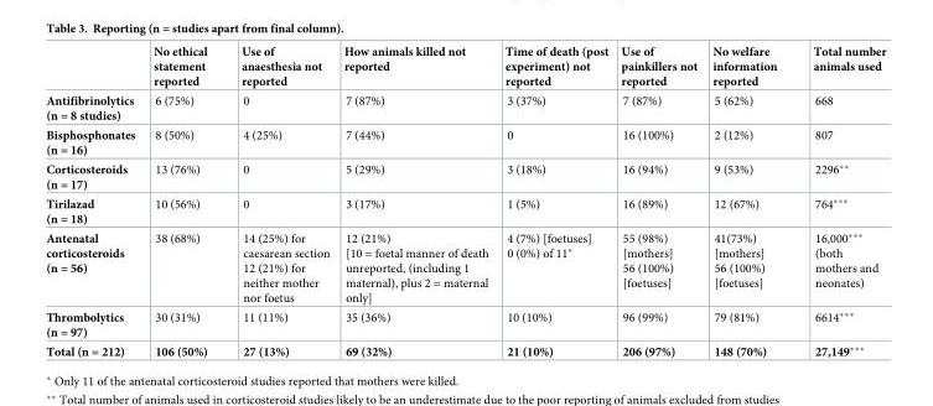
<table><thead><tr><td></td><td>No ethical statement reported</td><td>Use of anaesthesia not reported</td><td>How animals killed not reported</td><td>Time of death (post experiment) not reported</td><td>Use of painkillers not reported</td><td>No welfare information reported</td><td>Total number animals used</td></tr></thead><tbody><tr><td>Antifibrinolytics (n = 8 studies)</td><td>6 (75%)</td><td>0</td><td>7 (87%)</td><td>3 (37%)</td><td>7 (87%)</td><td>5 (62%)</td><td>668</td></tr><tr><td>Bisphosphonates (n = 16)</td><td>8 (50%)</td><td>4 (25%)</td><td>7 (44%)</td><td>0</td><td>16 (100%)</td><td>2 (12%)</td><td>807</td></tr><tr><td>Corticosteroids (n = 17)</td><td>13 (76%)</td><td>0</td><td>5 (29%)</td><td>3 (18%)</td><td>16 (94%)</td><td>9 (53%)</td><td>2296**</td></tr><tr><td>Tirilazad (n = 18)</td><td>10 (56%)</td><td>0</td><td>3 (17%)</td><td>1 (5%)</td><td>16 (89%)</td><td>12 (67%)</td><td>764***</td></tr><tr><td>Antenatal corticosteroids (n = 56)</td><td>38 (68%)</td><td>14 (25%) for caesarean section 12 (21%) for neither mother nor foetus</td><td>12 (21%) [10 = foetal manner of death unreported, (including 1 maternal), plus 2 = maternal only]</td><td>4 (7%) [foetuses] 0 (0%) of 11*</td><td>55 (98%) [mothers] 56 (100%) [foetuses]</td><td>41(73%) [mothers] 56 (100%) [foetuses]</td><td>16,000*** (both mothers and neonates)</td></tr><tr><td>Thrombolytics (n = 97)</td><td>30 (31%)</td><td>11 (11%)</td><td>35 (36%)</td><td>10 (10%)</td><td>96 (99%)</td><td>79 (81%)</td><td>6614***</td></tr><tr><td>Total (n = 212)</td><td>106 (50%)</td><td>27 (13%)</td><td>69 (32%)</td><td>21 (10%)</td><td>206 (97%)</td><td>148 (70%)</td><td>27,149***</td></tr></tbody></table>